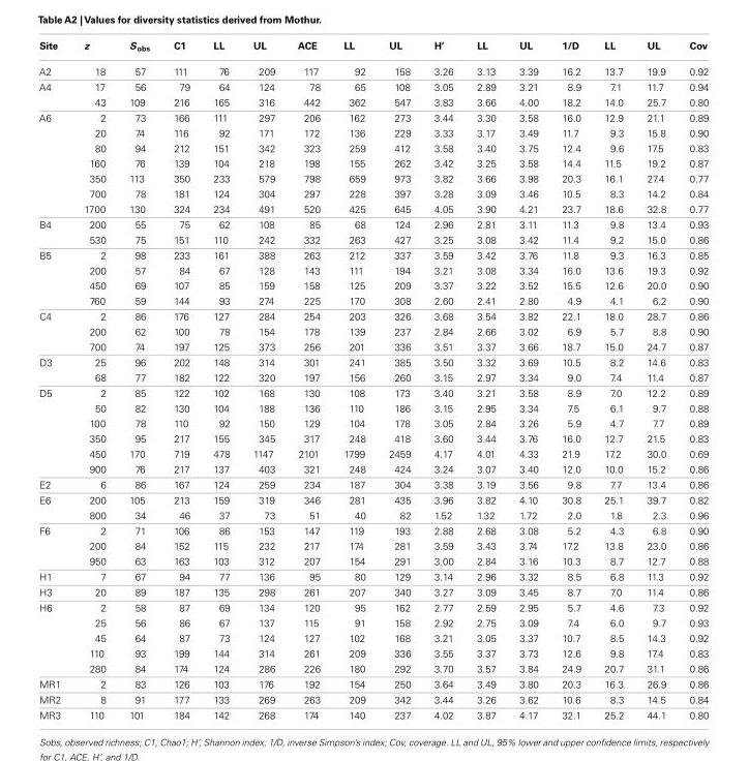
<table><thead><tr><td>Site</td><td>z</td><td>S<sub>obs</sub></td><td>C1</td><td>LL</td><td>UL</td><td>ACE</td><td>LL</td><td>UL</td><td>H’</td><td>LL</td><td>UL</td><td>1/D</td><td>LL</td><td>UL</td><td>Cov</td></tr></thead><tbody><tr><td>A2</td><td>18</td><td>57</td><td>111</td><td>76</td><td>209</td><td>117</td><td>92</td><td>158</td><td>3.26</td><td>3.13</td><td>3.39</td><td>16.2</td><td>13.7</td><td>19.9</td><td>0.92</td></tr><tr><td rowspan="2">A4</td><td>17</td><td>56</td><td>79</td><td>64</td><td>124</td><td>78</td><td>65</td><td>108</td><td>3.05</td><td>2.89</td><td>3.21</td><td>8.9</td><td>7.1</td><td>11.7</td><td>0.94</td></tr><tr><td>43</td><td>109</td><td>216</td><td>165</td><td>316</td><td>442</td><td>362</td><td>547</td><td>3.83</td><td>3.66</td><td>4.00</td><td>18.2</td><td>14.0</td><td>25.7</td><td>0.80</td></tr><tr><td rowspan="7">A6</td><td>2</td><td>73</td><td>166</td><td>111</td><td>297</td><td>206</td><td>162</td><td>273</td><td>3.44</td><td>3.30</td><td>3.58</td><td>16.0</td><td>12.9</td><td>21.1</td><td>0.89</td></tr><tr><td>20</td><td>74</td><td>116</td><td>92</td><td>171</td><td>172</td><td>136</td><td>229</td><td>3.33</td><td>3.17</td><td>3.49</td><td>11.7</td><td>9.3</td><td>15.8</td><td>0.90</td></tr><tr><td>80</td><td>94</td><td>212</td><td>151</td><td>342</td><td>323</td><td>259</td><td>412</td><td>3.58</td><td>3.40</td><td>3.75</td><td>12.4</td><td>9.6</td><td>17.5</td><td>0.83</td></tr><tr><td>160</td><td>76</td><td>139</td><td>104</td><td>218</td><td>198</td><td>155</td><td>262</td><td>3.42</td><td>3.25</td><td>3.58</td><td>14.4</td><td>11.5</td><td>19.2</td><td>0.87</td></tr><tr><td>350</td><td>113</td><td>350</td><td>233</td><td>579</td><td>798</td><td>659</td><td>973</td><td>3.82</td><td>3.66</td><td>3.98</td><td>20.3</td><td>16.1</td><td>27.4</td><td>0.77</td></tr><tr><td>700</td><td>78</td><td>181</td><td>124</td><td>304</td><td>297</td><td>228</td><td>397</td><td>3.28</td><td>3.09</td><td>3.46</td><td>10.5</td><td>8.3</td><td>14.2</td><td>0.84</td></tr><tr><td>1700</td><td>130</td><td>324</td><td>234</td><td>491</td><td>520</td><td>425</td><td>645</td><td>4.05</td><td>3.90</td><td>4.21</td><td>23.7</td><td>18.6</td><td>32.8</td><td>0.77</td></tr><tr><td rowspan="2">B4</td><td>200</td><td>55</td><td>75</td><td>62</td><td>108</td><td>85</td><td>68</td><td>124</td><td>2.96</td><td>2.81</td><td>3.11</td><td>11.3</td><td>9.8</td><td>13.4</td><td>0.93</td></tr><tr><td>530</td><td>75</td><td>151</td><td>110</td><td>242</td><td>332</td><td>263</td><td>427</td><td>3.25</td><td>3.08</td><td>3.42</td><td>11.4</td><td>9.2</td><td>15.0</td><td>0.86</td></tr><tr><td rowspan="4">B5</td><td>2</td><td>98</td><td>233</td><td>161</td><td>388</td><td>263</td><td>212</td><td>337</td><td>3.59</td><td>3.42</td><td>3.76</td><td>11.8</td><td>9.3</td><td>16.3</td><td>0.85</td></tr><tr><td>200</td><td>57</td><td>84</td><td>67</td><td>128</td><td>143</td><td>111</td><td>194</td><td>3.21</td><td>3.08</td><td>3.34</td><td>16.0</td><td>13.6</td><td>19.3</td><td>0.92</td></tr><tr><td>450</td><td>69</td><td>107</td><td>85</td><td>159</td><td>158</td><td>125</td><td>209</td><td>3.37</td><td>3.22</td><td>3.52</td><td>15.5</td><td>12.6</td><td>20.0</td><td>0.90</td></tr><tr><td>760</td><td>59</td><td>144</td><td>93</td><td>274</td><td>225</td><td>170</td><td>308</td><td>2.60</td><td>2.41</td><td>2.80</td><td>4.9</td><td>4.1</td><td>6.2</td><td>0.90</td></tr><tr><td rowspan="3">C4</td><td>2</td><td>86</td><td>176</td><td>127</td><td>284</td><td>254</td><td>203</td><td>326</td><td>3.68</td><td>3.54</td><td>3.82</td><td>22.1</td><td>18.0</td><td>28.7</td><td>0.86</td></tr><tr><td>200</td><td>62</td><td>100</td><td>78</td><td>154</td><td>178</td><td>139</td><td>237</td><td>2.84</td><td>2.66</td><td>3.02</td><td>6.9</td><td>5.7</td><td>8.8</td><td>0.90</td></tr><tr><td>700</td><td>74</td><td>197</td><td>125</td><td>373</td><td>256</td><td>201</td><td>336</td><td>3.51</td><td>3.37</td><td>3.66</td><td>18.7</td><td>15.0</td><td>24.7</td><td>0.87</td></tr><tr><td rowspan="2">D3</td><td>25</td><td>96</td><td>202</td><td>148</td><td>314</td><td>301</td><td>241</td><td>385</td><td>3.50</td><td>3.32</td><td>3.69</td><td>10.5</td><td>8.2</td><td>14.6</td><td>0.83</td></tr><tr><td>68</td><td>77</td><td>182</td><td>122</td><td>320</td><td>197</td><td>156</td><td>260</td><td>3.15</td><td>2.97</td><td>3.34</td><td>9.0</td><td>7.4</td><td>11.4</td><td>0.87</td></tr><tr><td rowspan="6">D5</td><td>2</td><td>85</td><td>122</td><td>102</td><td>168</td><td>130</td><td>108</td><td>173</td><td>3.40</td><td>3.21</td><td>3.58</td><td>8.9</td><td>7.0</td><td>12.2</td><td>0.89</td></tr><tr><td>50</td><td>82</td><td>130</td><td>104</td><td>188</td><td>136</td><td>110</td><td>186</td><td>3.15</td><td>2.95</td><td>3.34</td><td>7.5</td><td>6.1</td><td>9.7</td><td>0.88</td></tr><tr><td>100</td><td>78</td><td>110</td><td>92</td><td>150</td><td>129</td><td>104</td><td>178</td><td>3.05</td><td>2.84</td><td>3.26</td><td>5.9</td><td>4.7</td><td>7.7</td><td>0.89</td></tr><tr><td>350</td><td>95</td><td>217</td><td>155</td><td>345</td><td>317</td><td>248</td><td>418</td><td>3.60</td><td>3.44</td><td>3.76</td><td>16.0</td><td>12.7</td><td>21.5</td><td>0.83</td></tr><tr><td>450</td><td>170</td><td>719</td><td>478</td><td>1147</td><td>2101</td><td>1799</td><td>2459</td><td>4.17</td><td>4.01</td><td>4.33</td><td>21.9</td><td>17.2</td><td>30.0</td><td>0.69</td></tr><tr><td>900</td><td>76</td><td>217</td><td>137</td><td>403</td><td>321</td><td>248</td><td>424</td><td>3.24</td><td>3.07</td><td>3.40</td><td>12.0</td><td>10.0</td><td>15.2</td><td>0.86</td></tr><tr><td>E2</td><td>6</td><td>86</td><td>167</td><td>124</td><td>259</td><td>234</td><td>187</td><td>304</td><td>3.38</td><td>3.19</td><td>3.56</td><td>9.8</td><td>7.7</td><td>13.4</td><td>0.86</td></tr><tr><td rowspan="2">E6</td><td>200</td><td>105</td><td>213</td><td>159</td><td>319</td><td>346</td><td>281</td><td>435</td><td>3.96</td><td>3.82</td><td>4.10</td><td>30.8</td><td>25.1</td><td>39.7</td><td>0.82</td></tr><tr><td>800</td><td>34</td><td>46</td><td>37</td><td>73</td><td>51</td><td>40</td><td>82</td><td>1.52</td><td>1.32</td><td>1.72</td><td>2.0</td><td>1.8</td><td>2.3</td><td>0.96</td></tr><tr><td rowspan="3">F6</td><td>2</td><td>71</td><td>106</td><td>86</td><td>153</td><td>147</td><td>119</td><td>193</td><td>2.88</td><td>2.68</td><td>3.08</td><td>5.2</td><td>4.3</td><td>6.8</td><td>0.90</td></tr><tr><td>200</td><td>84</td><td>152</td><td>115</td><td>232</td><td>217</td><td>174</td><td>281</td><td>3.59</td><td>3.43</td><td>3.74</td><td>17.2</td><td>13.8</td><td>23.0</td><td>0.86</td></tr><tr><td>950</td><td>63</td><td>163</td><td>103</td><td>312</td><td>207</td><td>154</td><td>291</td><td>3.00</td><td>2.84</td><td>3.16</td><td>10.3</td><td>8.7</td><td>12.7</td><td>0.88</td></tr><tr><td>H1</td><td>7</td><td>67</td><td>94</td><td>77</td><td>136</td><td>95</td><td>80</td><td>129</td><td>3.14</td><td>2.96</td><td>3.32</td><td>8.5</td><td>6.8</td><td>11.3</td><td>0.92</td></tr><tr><td>H3</td><td>20</td><td>89</td><td>187</td><td>135</td><td>298</td><td>261</td><td>207</td><td>340</td><td>3.27</td><td>3.09</td><td>3.45</td><td>8.7</td><td>7.0</td><td>11.4</td><td>0.86</td></tr><tr><td rowspan="5">H6</td><td>2</td><td>58</td><td>87</td><td>69</td><td>134</td><td>120</td><td>95</td><td>162</td><td>2.77</td><td>2.59</td><td>2.95</td><td>5.7</td><td>4.6</td><td>7.3</td><td>0.92</td></tr><tr><td>25</td><td>56</td><td>86</td><td>67</td><td>137</td><td>115</td><td>91</td><td>158</td><td>2.92</td><td>2.75</td><td>3.09</td><td>7.4</td><td>6.0</td><td>9.7</td><td>0.93</td></tr><tr><td>45</td><td>64</td><td>87</td><td>73</td><td>124</td><td>127</td><td>102</td><td>168</td><td>3.21</td><td>3.05</td><td>3.37</td><td>10.7</td><td>8.5</td><td>14.3</td><td>0.92</td></tr><tr><td>110</td><td>93</td><td>199</td><td>144</td><td>314</td><td>261</td><td>209</td><td>336</td><td>3.55</td><td>3.37</td><td>3.73</td><td>12.6</td><td>9.8</td><td>17.4</td><td>0.83</td></tr><tr><td>280</td><td>84</td><td>174</td><td>124</td><td>286</td><td>226</td><td>180</td><td>292</td><td>3.70</td><td>3.57</td><td>3.84</td><td>24.9</td><td>20.7</td><td>31.1</td><td>0.86</td></tr><tr><td>MR1</td><td>2</td><td>83</td><td>126</td><td>103</td><td>176</td><td>192</td><td>154</td><td>250</td><td>3.64</td><td>3.49</td><td>3.80</td><td>20.3</td><td>16.3</td><td>26.9</td><td>0.86</td></tr><tr><td>MR2</td><td>8</td><td>91</td><td>177</td><td>133</td><td>269</td><td>263</td><td>209</td><td>342</td><td>3.44</td><td>3.26</td><td>3.62</td><td>10.6</td><td>8.3</td><td>14.5</td><td>0.84</td></tr><tr><td>MR3</td><td>110</td><td>101</td><td>184</td><td>142</td><td>268</td><td>174</td><td>140</td><td>237</td><td>4.02</td><td>3.87</td><td>4.17</td><td>32.1</td><td>25.2</td><td>44.1</td><td>0.80</td></tr></tbody></table>